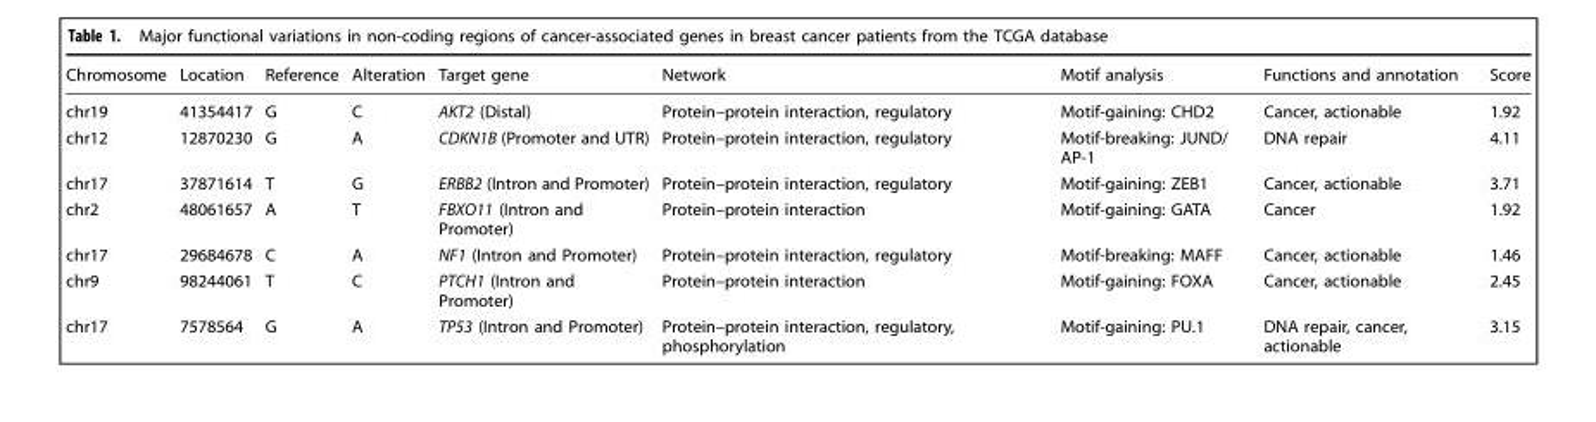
<table><thead><tr><td>Chromosome</td><td>Location</td><td>Reference</td><td>Alteration</td><td>Target gene</td><td>Network</td><td>Motif analysis</td><td>Functions and annotation</td><td>Score</td></tr></thead><tbody><tr><td>chr19</td><td>41354417</td><td>G</td><td>C</td><td>AKT2 (Distal)</td><td>Protein–protein interaction, regulatory</td><td>Motif-gaining: CHD2</td><td>Cancer, actionable</td><td>1.92</td></tr><tr><td>chr12</td><td>12870230</td><td>G</td><td>A</td><td>CDKN1B (Promoter and UTR)</td><td>Protein–protein interaction, regulatory</td><td>Motif-breaking: JUND/ AP-1</td><td>DNA repair</td><td>4.11</td></tr><tr><td>chr17</td><td>37871614</td><td>T</td><td>G</td><td>ERBB2 (Intron and Promoter)</td><td>Protein–protein interaction, regulatory</td><td>Motif-gaining: ZEB1</td><td>Cancer, actionable</td><td>3.71</td></tr><tr><td>chr2</td><td>48061657</td><td>A</td><td>T</td><td>FBXO11 (Intron and Promoter)</td><td>Protein–protein interaction</td><td>Motif-gaining: GATA</td><td>Cancer</td><td>1.92</td></tr><tr><td>chr17</td><td>29684678</td><td>C</td><td>A</td><td>NF1 (Intron and Promoter)</td><td>Protein–protein interaction, regulatory</td><td>Motif-breaking: MAFF</td><td>Cancer, actionable</td><td>1.46</td></tr><tr><td>chr9</td><td>98244061</td><td>T</td><td>C</td><td>PTCH1 (Intron and Promoter)</td><td>Protein–protein interaction</td><td>Motif-gaining: FOXA</td><td>Cancer, actionable</td><td>2.45</td></tr><tr><td>chr17</td><td>7578564</td><td>G</td><td>A</td><td>TP53 (Intron and Promoter)</td><td>Protein–protein interaction, regulatory, phosphorylation</td><td>Motif-gaining: PU.1</td><td>DNA repair, cancer, actionable</td><td>3.15</td></tr></tbody></table>